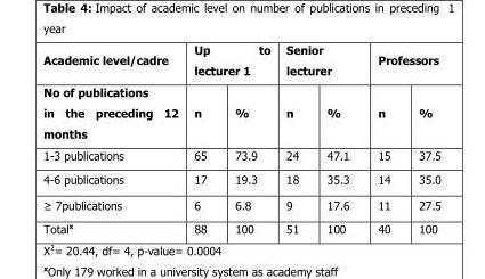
<table><thead><tr><td rowspan="2">Academic level/cadre No of publications in the preceding 12 months</td><td colspan="2">Up to lecturer 1</td><td colspan="2">Senior lecturer</td><td colspan="2">Professors</td></tr><tr><td>n</td><td>%</td><td>n</td><td>%</td><td>n</td><td>%</td></tr></thead><tbody><tr><td>1-3 publications</td><td>65</td><td>73.9</td><td>24</td><td>47.1</td><td>15</td><td>37.5</td></tr><tr><td>4-6 publications</td><td>17</td><td>19.3</td><td>18</td><td>35.3</td><td>14</td><td>35.0</td></tr><tr><td>≥ 7publications</td><td>6</td><td>6.8</td><td>9</td><td>17.6</td><td>11</td><td>27.5</td></tr><tr><td>Total<sup>x</sup></td><td>88</td><td>100</td><td>51</td><td>100</td><td>40</td><td>100</td></tr></tbody></table>